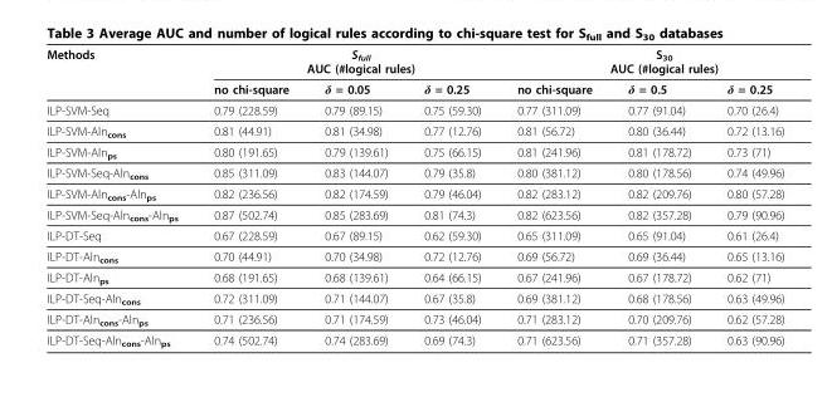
<table><thead><tr><td rowspan="2">Methods</td><td colspan="3">S<sub>full</sub> AUC (#logical rules)</td><td colspan="3">S<sub>30</sub> AUC (#logical rules)</td></tr><tr><td>no chi-square</td><td>δ = 0.05</td><td>δ = 0.25</td><td>no chi-square</td><td>δ = 0.5</td><td>δ = 0.25</td></tr></thead><tbody><tr><td>ILP-SVM-Seq</td><td>0.79 (228.59)</td><td>0.79 (89.15)</td><td>0.75 (59.30)</td><td>0.77 (311.09)</td><td>0.77 (91.04)</td><td>0.70 (26.4)</td></tr><tr><td>ILP-SVM-Aln<sub>cons</sub></td><td>0.81 (44.91)</td><td>0.81 (34.98)</td><td>0.77 (12.76)</td><td>0.81 (56.72)</td><td>0.80 (36.44)</td><td>0.72 (13.16)</td></tr><tr><td>ILP-SVM-Aln<sub>ps</sub></td><td>0.80 (191.65)</td><td>0.79 (139.61)</td><td>0.75 (66.15)</td><td>0.81 (241.96)</td><td>0.81 (178.72)</td><td>0.73 (71)</td></tr><tr><td>ILP-SVM-Seq-Aln<sub>cons</sub></td><td>0.85 (311.09)</td><td>0.83 (144.07)</td><td>0.79 (35.8)</td><td>0.80 (381.12)</td><td>0.80 (178.56)</td><td>0.74 (49.96)</td></tr><tr><td>ILP-SVM-Aln<sub>cons</sub>-Aln<sub>ps</sub></td><td>0.82 (236.56)</td><td>0.82 (174.59)</td><td>0.79 (46.04)</td><td>0.82 (283.12)</td><td>0.82 (209.76)</td><td>0.80 (57.28)</td></tr><tr><td>ILP-SVM-Seq-Aln<sub>cons</sub>-Aln<sub>ps</sub></td><td>0.87 (502.74)</td><td>0.85 (283.69)</td><td>0.81 (74.3)</td><td>0.82 (623.56)</td><td>0.82 (357.28)</td><td>0.79 (90.96)</td></tr><tr><td>ILP-DT-Seq</td><td>0.67 (228.59)</td><td>0.67 (89.15)</td><td>0.62 (59.30)</td><td>0.65 (311.09)</td><td>0.65 (91.04)</td><td>0.61 (26.4)</td></tr><tr><td>ILP-DT-Aln<sub>cons</sub></td><td>0.70 (44.91)</td><td>0.70 (34.98)</td><td>0.72 (12.76)</td><td>0.69 (56.72)</td><td>0.69 (36.44)</td><td>0.65 (13.16)</td></tr><tr><td>ILP-DT-Aln<sub>ps</sub></td><td>0.68 (191.65)</td><td>0.68 (139.61)</td><td>0.64 (66.15)</td><td>0.67 (241.96)</td><td>0.67 (178.72)</td><td>0.62 (71)</td></tr><tr><td>ILP-DT-Seq-Aln<sub>cons</sub></td><td>0.72 (311.09)</td><td>0.71 (144.07)</td><td>0.67 (35.8)</td><td>0.69 (381.12)</td><td>0.68 (178.56)</td><td>0.63 (49.96)</td></tr><tr><td>ILP-DT-Aln<sub>cons</sub>-Aln<sub>ps</sub></td><td>0.71 (236.56)</td><td>0.71 (174.59)</td><td>0.73 (46.04)</td><td>0.71 (283.12)</td><td>0.70 (209.76)</td><td>0.62 (57.28)</td></tr><tr><td>ILP-DT-Seq-Aln<sub>cons</sub>-Aln<sub>ps</sub></td><td>0.74 (502.74)</td><td>0.74 (283.69)</td><td>0.69 (74.3)</td><td>0.71 (623.56)</td><td>0.71 (357.28)</td><td>0.63 (90.96)</td></tr></tbody></table>